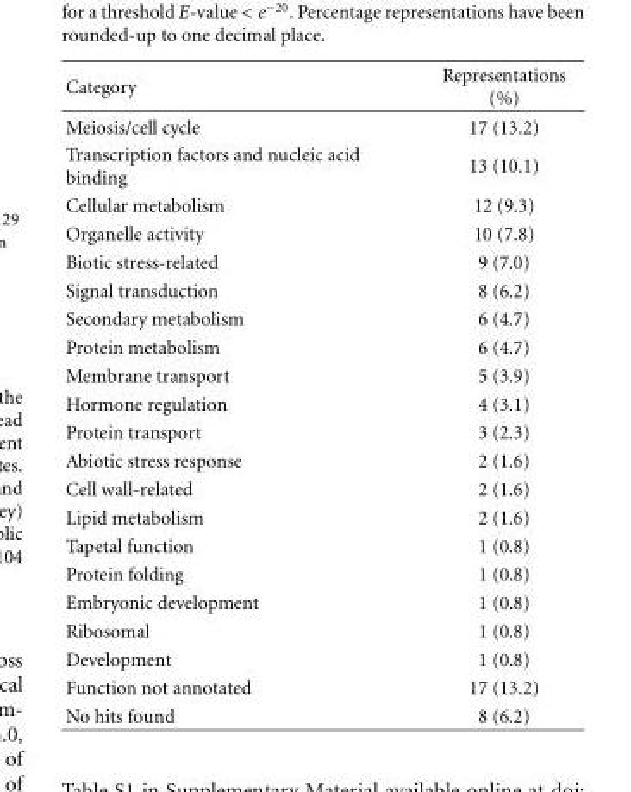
<table><thead><tr><td>Category</td><td>Representations (%)</td></tr></thead><tbody><tr><td>Meiosis/cell cycle</td><td>17 (13.2)</td></tr><tr><td>Transcription factors and nucleic acid binding</td><td>13 (10.1)</td></tr><tr><td>Cellular metabolism</td><td>12 (9.3)</td></tr><tr><td>Organelle activity</td><td>10 (7.8)</td></tr><tr><td>Biotic stress-related</td><td>9 (7.0)</td></tr><tr><td>Signal transduction</td><td>8 (6.2)</td></tr><tr><td>Secondary metabolism</td><td>6 (4.7)</td></tr><tr><td>Protein metabolism</td><td>6 (4.7)</td></tr><tr><td>Membrane transport</td><td>5 (3.9)</td></tr><tr><td>Hormone regulation</td><td>4 (3.1)</td></tr><tr><td>Protein transport</td><td>3 (2.3)</td></tr><tr><td>Abiotic stress response</td><td>2 (1.6)</td></tr><tr><td>Cell wall-related</td><td>2 (1.6)</td></tr><tr><td>Lipid metabolism</td><td>2 (1.6)</td></tr><tr><td>Tapetal function</td><td>1 (0.8)</td></tr><tr><td>Protein folding</td><td>1 (0.8)</td></tr><tr><td>Embryonic development</td><td>1 (0.8)</td></tr><tr><td>Ribosomal</td><td>1 (0.8)</td></tr><tr><td>Development</td><td>1 (0.8)</td></tr><tr><td>Function not annotated</td><td>17 (13.2)</td></tr><tr><td>No hits found</td><td>8 (6.2)</td></tr></tbody></table>